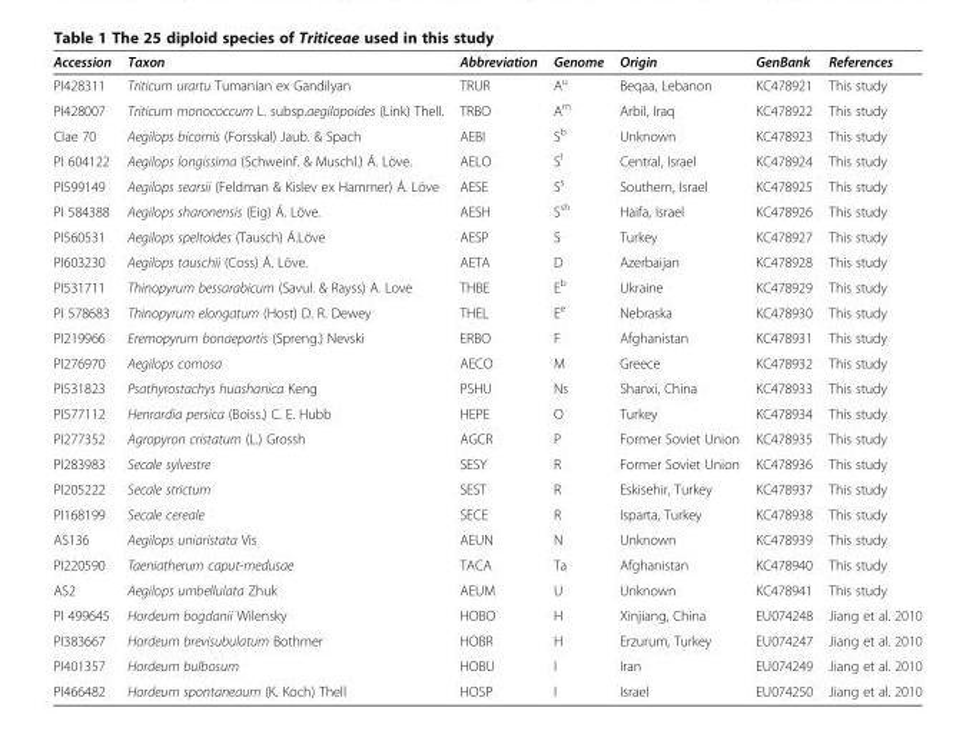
<table><thead><tr><td>Accession</td><td>Taxon</td><td>Abbreviation</td><td>Genome</td><td>Origin</td><td>GenBank</td><td>References</td></tr></thead><tbody><tr><td>PI428311</td><td>Triticum urartu Tumanian ex Gandilyan</td><td>TRUR</td><td>A<sup>u</sup></td><td>Beqaa, Lebanon</td><td>KC478921</td><td>This study</td></tr><tr><td>PI428007</td><td>Triticum monococcum L. subsp.aegilopoides (Link) Thell.</td><td>TRBO</td><td>A<sup>m</sup></td><td>Arbil, Iraq</td><td>KC478922</td><td>This study</td></tr><tr><td>CIae 70</td><td>Aegilops bicornis (Forsskal) Jaub. &amp; Spach</td><td>AEBI</td><td>S<sup>b</sup></td><td>Unknown</td><td>KC478923</td><td>This study</td></tr><tr><td>PI 604122</td><td>Aegilops longissima (Schweinf. &amp; Muschl.) Á. Löve.</td><td>AELO</td><td>S<sup>l</sup></td><td>Central, Israel</td><td>KC478924</td><td>This study</td></tr><tr><td>PI599149</td><td>Aegilops searsii (Feldman &amp; Kislev ex Hammer) Á. Löve</td><td>AESE</td><td>S<sup>s</sup></td><td>Southern, Israel</td><td>KC478925</td><td>This study</td></tr><tr><td>PI 584388</td><td>Aegilops sharonensis (Eig) Á. Löve.</td><td>AESH</td><td>S<sup>sh</sup></td><td>Haifa, Israel</td><td>KC478926</td><td>This study</td></tr><tr><td>PI560531</td><td>Aegilops speltoides (Tausch) Á.Löve</td><td>AESP</td><td>S</td><td>Turkey</td><td>KC478927</td><td>This study</td></tr><tr><td>PI603230</td><td>Aegilops tauschii (Coss) Á. Löve.</td><td>AETA</td><td>D</td><td>Azerbaijan</td><td>KC478928</td><td>This study</td></tr><tr><td>PI531711</td><td>Thinopyrum bessarabicum (Savul. &amp; Rayss) A. Love</td><td>THBE</td><td>E<sup>b</sup></td><td>Ukraine</td><td>KC478929</td><td>This study</td></tr><tr><td>PI 578683</td><td>Thinopyrum elongatum (Host) D. R. Dewey</td><td>THEL</td><td>E<sup>e</sup></td><td>Nebraska</td><td>KC478930</td><td>This study</td></tr><tr><td>PI219966</td><td>Eremopyrum bonaepartis (Spreng.) Nevski</td><td>ERBO</td><td>F</td><td>Afghanistan</td><td>KC478931</td><td>This study</td></tr><tr><td>PI276970</td><td>Aegilops comosa</td><td>AECO</td><td>M</td><td>Greece</td><td>KC478932</td><td>This study</td></tr><tr><td>PI531823</td><td>Psathyrostachys huashanica Keng</td><td>PSHU</td><td>Ns</td><td>Shanxi, China</td><td>KC478933</td><td>This study</td></tr><tr><td>PI577112</td><td>Henrardia persica (Boiss.) C. E. Hubb</td><td>HEPE</td><td>O</td><td>Turkey</td><td>KC478934</td><td>This study</td></tr><tr><td>PI277352</td><td>Agropyron cristatum (L.) Grossh</td><td>AGCR</td><td>P</td><td>Former Soviet Union</td><td>KC478935</td><td>This study</td></tr><tr><td>PI283983</td><td>Secale sylvestre</td><td>SESY</td><td>R</td><td>Former Soviet Union</td><td>KC478936</td><td>This study</td></tr><tr><td>PI205222</td><td>Secale strictum</td><td>SEST</td><td>R</td><td>Eskisehir, Turkey</td><td>KC478937</td><td>This study</td></tr><tr><td>PI168199</td><td>Secale cereale</td><td>SECE</td><td>R</td><td>Isparta, Turkey</td><td>KC478938</td><td>This study</td></tr><tr><td>AS136</td><td>Aegilops uniaristata Vis</td><td>AEUN</td><td>N</td><td>Unknown</td><td>KC478939</td><td>This study</td></tr><tr><td>PI220590</td><td>Taeniatherum caput-medusae</td><td>TACA</td><td>Ta</td><td>Afghanistan</td><td>KC478940</td><td>This study</td></tr><tr><td>AS2</td><td>Aegilops umbellulata Zhuk</td><td>AEUM</td><td>U</td><td>Unknown</td><td>KC478941</td><td>This study</td></tr><tr><td>PI 499645</td><td>Hordeum bogdanii Wilensky</td><td>HOBO</td><td>H</td><td>Xinjiang, China</td><td>EU074248</td><td>Jiang et al. 2010</td></tr><tr><td>PI383667</td><td>Hordeum brevisubulatum Bothmer</td><td>HOBR</td><td>H</td><td>Erzurum, Turkey</td><td>EU074247</td><td>Jiang et al. 2010</td></tr><tr><td>PI401357</td><td>Hordeum bulbosum</td><td>HOBU</td><td>I</td><td>Iran</td><td>EU074249</td><td>Jiang et al. 2010</td></tr><tr><td>PI466482</td><td>Hordeum spontaneaum (K. Koch) Thell</td><td>HOSP</td><td>I</td><td>Israel</td><td>EU074250</td><td>Jiang et al. 2010</td></tr></tbody></table>